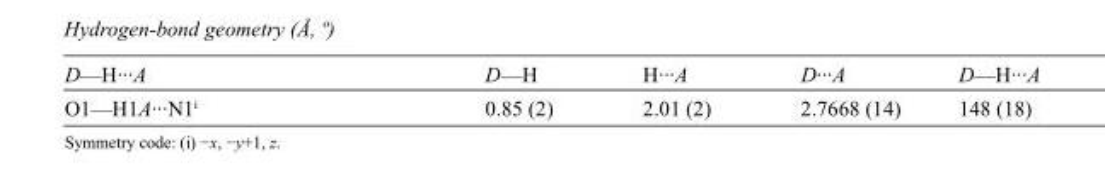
<table><tbody><tr><td>D—H···A</td><td>D—H</td><td>H···A</td><td>D···A</td><td>D—H···A</td></tr><tr><td>O1—H1A···N1<sup>i</sup></td><td>0.85 (2)</td><td>2.01 (2)</td><td>2.7668 (14)</td><td>148 (18)</td></tr></tbody></table>